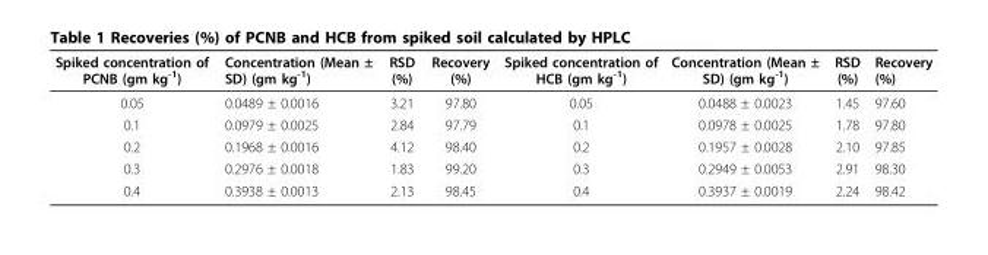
<table><thead><tr><td>Spiked concentration of PCNB (gm kg<sup>-1</sup>)</td><td>Concentration (Mean ± SD) (gm kg<sup>-1</sup>)</td><td>RSD (%)</td><td>Recovery (%)</td><td>Spiked concentration of HCB (gm kg<sup>-1</sup>)</td><td>Concentration (Mean ± SD) (gm kg<sup>-1</sup>)</td><td>RSD (%)</td><td>Recovery (%)</td></tr></thead><tbody><tr><td>0.05</td><td>0.0489 ± 0.0016</td><td>3.21</td><td>97.80</td><td>0.05</td><td>0.0488 ± 0.0023</td><td>1.45</td><td>97.60</td></tr><tr><td>0.1</td><td>0.0979 ± 0.0025</td><td>2.84</td><td>97.79</td><td>0.1</td><td>0.0978 ± 0.0025</td><td>1.78</td><td>97.80</td></tr><tr><td>0.2</td><td>0.1968 ± 0.0016</td><td>4.12</td><td>98.40</td><td>0.2</td><td>0.1957 ± 0.0028</td><td>2.10</td><td>97.85</td></tr><tr><td>0.3</td><td>0.2976 ± 0.0018</td><td>1.83</td><td>99.20</td><td>0.3</td><td>0.2949 ± 0.0053</td><td>2.91</td><td>98.30</td></tr><tr><td>0.4</td><td>0.3938 ± 0.0013</td><td>2.13</td><td>98.45</td><td>0.4</td><td>0.3937 ± 0.0019</td><td>2.24</td><td>98.42</td></tr></tbody></table>